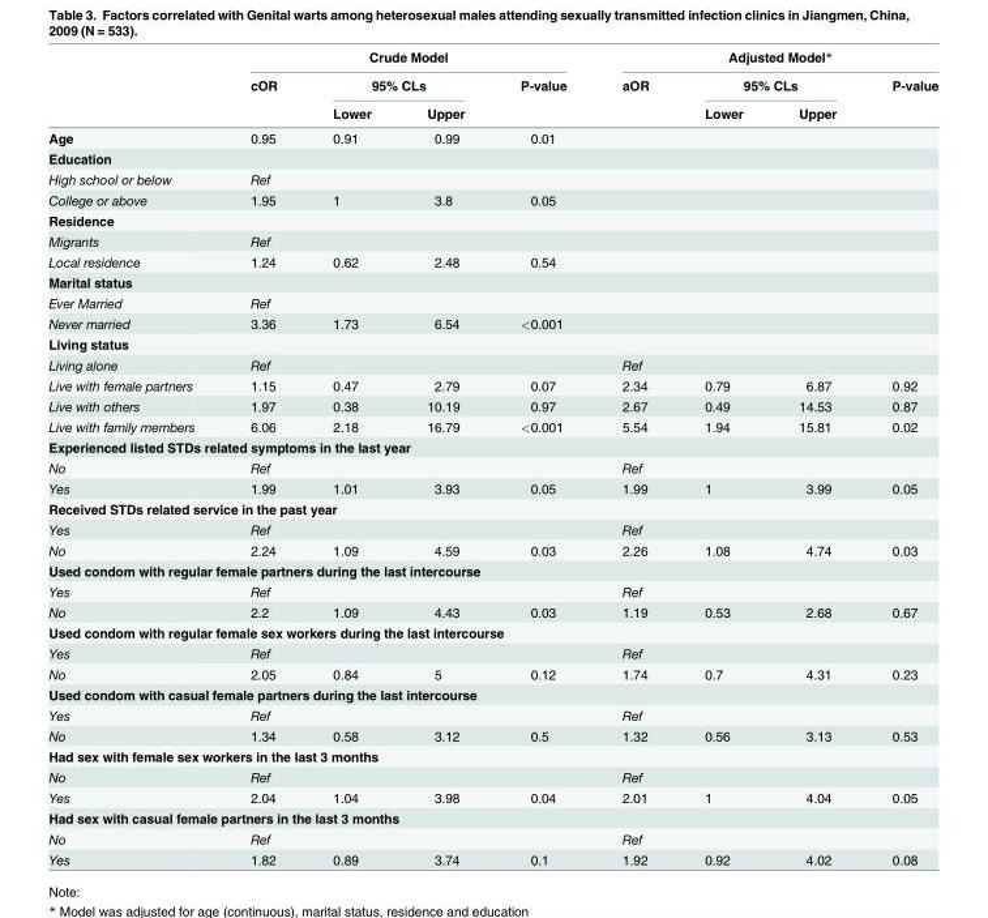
<table><thead><tr><td rowspan="3"></td><td colspan="4">Crude Model</td><td colspan="4">Adjusted Model*</td></tr><tr><td rowspan="2">cOR</td><td colspan="2">95% CLs</td><td rowspan="2">P-value</td><td rowspan="2">aOR</td><td colspan="2">95% CLs</td><td rowspan="2">P-value</td></tr><tr><td>Lower</td><td>Upper</td><td>Lower</td><td>Upper</td></tr></thead><tbody><tr><td>Age</td><td>0.95</td><td>0.91</td><td>0.99</td><td>0.01</td><td></td><td></td><td></td><td></td></tr><tr><td colspan="9">Education</td></tr><tr><td>High school or below</td><td>Ref</td><td></td><td></td><td></td><td></td><td></td><td></td><td></td></tr><tr><td>College or above</td><td>1.95</td><td>1</td><td>3.8</td><td>0.05</td><td></td><td></td><td></td><td></td></tr><tr><td colspan="9">Residence</td></tr><tr><td>Migrants</td><td>Ref</td><td></td><td></td><td></td><td></td><td></td><td></td><td></td></tr><tr><td>Local residence</td><td>1.24</td><td>0.62</td><td>2.48</td><td>0.54</td><td></td><td></td><td></td><td></td></tr><tr><td colspan="9">Marital status</td></tr><tr><td>Ever Married</td><td>Ref</td><td></td><td></td><td></td><td></td><td></td><td></td><td></td></tr><tr><td>Never married</td><td>3.36</td><td>1.73</td><td>6.54</td><td>&lt;0.001</td><td></td><td></td><td></td><td></td></tr><tr><td colspan="9">Living status</td></tr><tr><td>Living alone</td><td>Ref</td><td></td><td></td><td></td><td>Ref</td><td></td><td></td><td></td></tr><tr><td>Live with female partners</td><td>1.15</td><td>0.47</td><td>2.79</td><td>0.07</td><td>2.34</td><td>0.79</td><td>6.87</td><td>0.92</td></tr><tr><td>Live with others</td><td>1.97</td><td>0.38</td><td>10.19</td><td>0.97</td><td>2.67</td><td>0.49</td><td>14.53</td><td>0.87</td></tr><tr><td>Live with family members</td><td>6.06</td><td>2.18</td><td>16.79</td><td>&lt;0.001</td><td>5.54</td><td>1.94</td><td>15.81</td><td>0.02</td></tr><tr><td colspan="9">Experienced listed STDs related symptoms in the last year</td></tr><tr><td>No</td><td>Ref</td><td></td><td></td><td></td><td>Ref</td><td></td><td></td><td></td></tr><tr><td>Yes</td><td>1.99</td><td>1.01</td><td>3.93</td><td>0.05</td><td>1.99</td><td>1</td><td>3.99</td><td>0.05</td></tr><tr><td colspan="9">Received STDs related service in the past year</td></tr><tr><td>Yes</td><td>Ref</td><td></td><td></td><td></td><td>Ref</td><td></td><td></td><td></td></tr><tr><td>No</td><td>2.24</td><td>1.09</td><td>4.59</td><td>0.03</td><td>2.26</td><td>1.08</td><td>4.74</td><td>0.03</td></tr><tr><td colspan="9">Used condom with regular female partners during the last intercourse</td></tr><tr><td>Yes</td><td>Ref</td><td></td><td></td><td></td><td>Ref</td><td></td><td></td><td></td></tr><tr><td>No</td><td>2.2</td><td>1.09</td><td>4.43</td><td>0.03</td><td>1.19</td><td>0.53</td><td>2.68</td><td>0.67</td></tr><tr><td colspan="9">Used condom with regular female sex workers during the last intercourse</td></tr><tr><td>Yes</td><td>Ref</td><td></td><td></td><td></td><td>Ref</td><td></td><td></td><td></td></tr><tr><td>No</td><td>2.05</td><td>0.84</td><td>5</td><td>0.12</td><td>1.74</td><td>0.7</td><td>4.31</td><td>0.23</td></tr><tr><td colspan="9">Used condom with casual female partners during the last intercourse</td></tr><tr><td>Yes</td><td>Ref</td><td></td><td></td><td></td><td>Ref</td><td></td><td></td><td></td></tr><tr><td>No</td><td>1.34</td><td>0.58</td><td>3.12</td><td>0.5</td><td>1.32</td><td>0.56</td><td>3.13</td><td>0.53</td></tr><tr><td colspan="9">Had sex with female sex workers in the last 3 months</td></tr><tr><td>No</td><td>Ref</td><td></td><td></td><td></td><td>Ref</td><td></td><td></td><td></td></tr><tr><td>Yes</td><td>2.04</td><td>1.04</td><td>3.98</td><td>0.04</td><td>2.01</td><td>1</td><td>4.04</td><td>0.05</td></tr><tr><td colspan="9">Had sex with casual female partners in the last 3 months</td></tr><tr><td>No</td><td>Ref</td><td></td><td></td><td></td><td>Ref</td><td></td><td></td><td></td></tr><tr><td>Yes</td><td>1.82</td><td>0.89</td><td>3.74</td><td>0.1</td><td>1.92</td><td>0.92</td><td>4.02</td><td>0.08</td></tr></tbody></table>